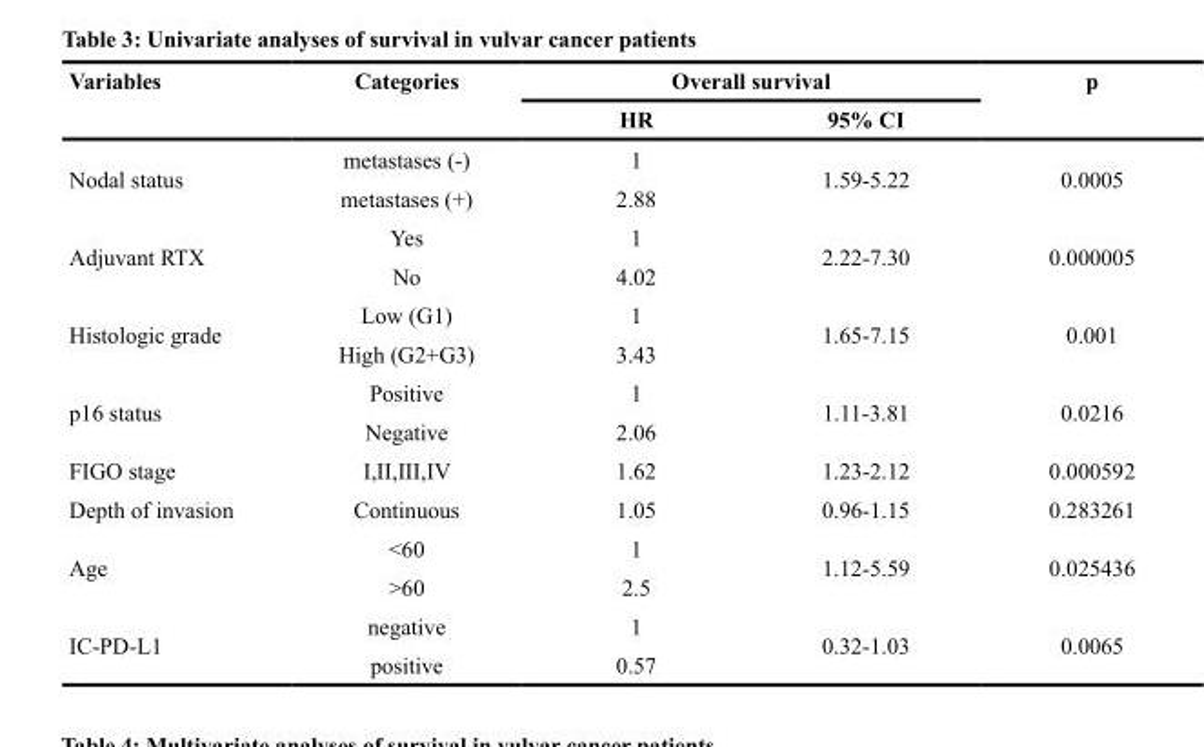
<table><thead><tr><td rowspan="2">Variables</td><td rowspan="2">Categories</td><td colspan="2">Overall survival</td><td rowspan="2">p</td></tr><tr><td>HR</td><td>95% CI</td></tr></thead><tbody><tr><td rowspan="2">Nodal status</td><td>metastases (-)</td><td>1</td><td rowspan="2">1.59-5.22</td><td rowspan="2">0.0005</td></tr><tr><td>metastases (+)</td><td>2.88</td></tr><tr><td rowspan="2">Adjuvant RTX</td><td>Yes</td><td>1</td><td rowspan="2">2.22-7.30</td><td rowspan="2">0.000005</td></tr><tr><td>No</td><td>4.02</td></tr><tr><td rowspan="2">Histologic grade</td><td>Low (G1)</td><td>1</td><td rowspan="2">1.65-7.15</td><td rowspan="2">0.001</td></tr><tr><td>High (G2+G3)</td><td>3.43</td></tr><tr><td rowspan="2">p16 status</td><td>Positive</td><td>1</td><td rowspan="2">1.11-3.81</td><td rowspan="2">0.0216</td></tr><tr><td>Negative</td><td>2.06</td></tr><tr><td>FIGO stage</td><td>I,II,III,IV</td><td>1.62</td><td>1.23-2.12</td><td>0.000592</td></tr><tr><td>Depth of invasion</td><td>Continuous</td><td>1.05</td><td>0.96-1.15</td><td>0.283261</td></tr><tr><td rowspan="2">Age</td><td>&lt;60</td><td>1</td><td rowspan="2">1.12-5.59</td><td rowspan="2">0.025436</td></tr><tr><td>&gt;60</td><td>2.5</td></tr><tr><td rowspan="2">IC-PD-L1</td><td>negative</td><td>1</td><td rowspan="2">0.32-1.03</td><td rowspan="2">0.0065</td></tr><tr><td>positive</td><td>0.57</td></tr></tbody></table>